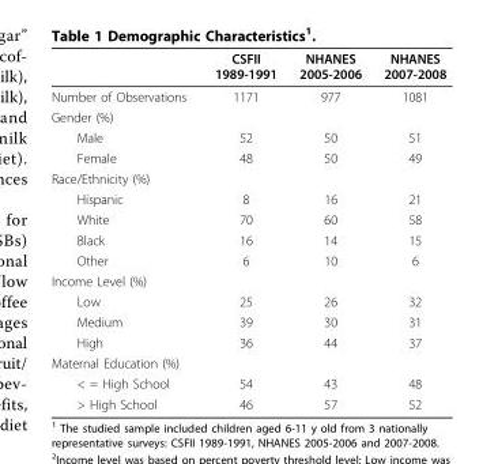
<table><thead><tr><td></td><td>CSFII 1989-1991</td><td>NHANES 2005-2006</td><td>NHANES 2007-2008</td></tr></thead><tbody><tr><td>Number of Observations</td><td>1171</td><td>977</td><td>1081</td></tr><tr><td colspan="4">Gender (%)</td></tr><tr><td>Male</td><td>52</td><td>50</td><td>51</td></tr><tr><td>Female</td><td>48</td><td>50</td><td>49</td></tr><tr><td colspan="4">Race/Ethnicity (%)</td></tr><tr><td>Hispanic</td><td>8</td><td>16</td><td>21</td></tr><tr><td>White</td><td>70</td><td>60</td><td>58</td></tr><tr><td>Black</td><td>16</td><td>14</td><td>15</td></tr><tr><td>Other</td><td>6</td><td>10</td><td>6</td></tr><tr><td colspan="4">Income Level (%)</td></tr><tr><td>Low</td><td>25</td><td>26</td><td>32</td></tr><tr><td>Medium</td><td>39</td><td>30</td><td>31</td></tr><tr><td>High</td><td>36</td><td>44</td><td>37</td></tr><tr><td colspan="4">Maternal Education (%)</td></tr><tr><td>&lt; = High School</td><td>54</td><td>43</td><td>48</td></tr><tr><td>&gt; High School</td><td>46</td><td>57</td><td>52</td></tr></tbody></table>